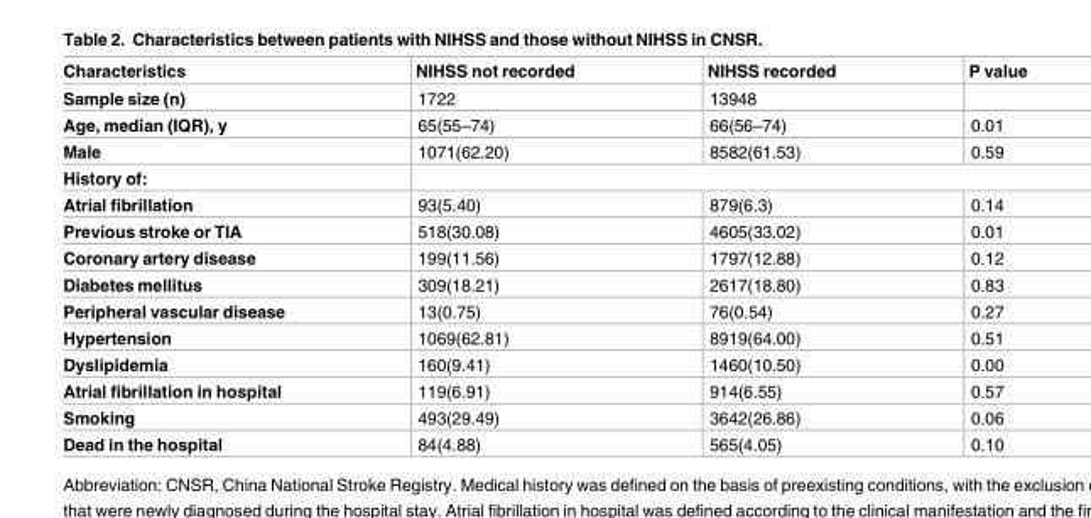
<table><thead><tr><td>Characteristics</td><td>NIHSS not recorded</td><td>NIHSS recorded</td><td>P value</td></tr></thead><tbody><tr><td>Sample size (n)</td><td>1722</td><td>13948</td><td></td></tr><tr><td>Age, median (IQR), y</td><td>65(55–74)</td><td>66(56–74)</td><td>0.01</td></tr><tr><td>Male</td><td>1071(62.20)</td><td>8582(61.53)</td><td>0.59</td></tr><tr><td colspan="4">History of:</td></tr><tr><td>Atrial fibrillation</td><td>93(5.40)</td><td>879(6.3)</td><td>0.14</td></tr><tr><td>Previous stroke or TIA</td><td>518(30.08)</td><td>4605(33.02)</td><td>0.01</td></tr><tr><td>Coronary artery disease</td><td>199(11.56)</td><td>1797(12.88)</td><td>0.12</td></tr><tr><td>Diabetes mellitus</td><td>309(18.21)</td><td>2617(18.80)</td><td>0.83</td></tr><tr><td>Peripheral vascular disease</td><td>13(0.75)</td><td>76(0.54)</td><td>0.27</td></tr><tr><td>Hypertension</td><td>1069(62.81)</td><td>8919(64.00)</td><td>0.51</td></tr><tr><td>Dyslipidemia</td><td>160(9.41)</td><td>1460(10.50)</td><td>0.00</td></tr><tr><td>Atrial fibrillation in hospital</td><td>119(6.91)</td><td>914(6.55)</td><td>0.57</td></tr><tr><td>Smoking</td><td>493(29.49)</td><td>3642(26.86)</td><td>0.06</td></tr><tr><td>Dead in the hospital</td><td>84(4.88)</td><td>565(4.05)</td><td>0.10</td></tr></tbody></table>